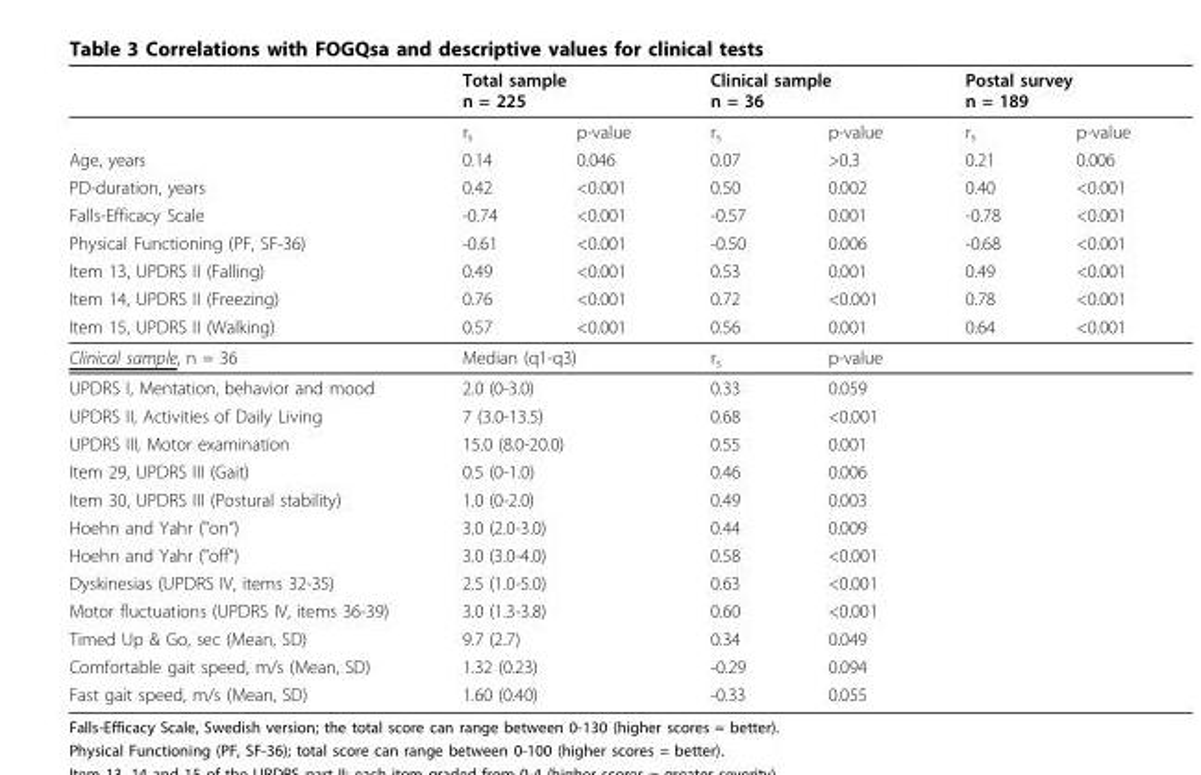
<table><thead><tr><td rowspan="2"></td><td colspan="2">Total sample n = 225</td><td colspan="2">Clinical sample n = 36</td><td colspan="2">Postal survey n = 189</td></tr><tr><td>r<sub>s</sub></td><td>p-value</td><td>r<sub>s</sub></td><td>p-value</td><td>r<sub>s</sub></td><td>p-value</td></tr></thead><tbody><tr><td>Age, years</td><td>0.14</td><td>0.046</td><td>0.07</td><td>&gt;0.3</td><td>0.21</td><td>0.006</td></tr><tr><td>PD-duration, years</td><td>0.42</td><td>&lt;0.001</td><td>0.50</td><td>0.002</td><td>0.40</td><td>&lt;0.001</td></tr><tr><td>Falls-Efficacy Scale</td><td>-0.74</td><td>&lt;0.001</td><td>-0.57</td><td>0.001</td><td>-0.78</td><td>&lt;0.001</td></tr><tr><td>Physical Functioning (PF, SF-36)</td><td>-0.61</td><td>&lt;0.001</td><td>-0.50</td><td>0.006</td><td>-0.68</td><td>&lt;0.001</td></tr><tr><td>Item 13, UPDRS II (Falling)</td><td>0.49</td><td>&lt;0.001</td><td>0.53</td><td>0.001</td><td>0.49</td><td>&lt;0.001</td></tr><tr><td>Item 14, UPDRS II (Freezing)</td><td>0.76</td><td>&lt;0.001</td><td>0.72</td><td>&lt;0.001</td><td>0.78</td><td>&lt;0.001</td></tr><tr><td>Item 15, UPDRS II (Walking)</td><td>0.57</td><td>&lt;0.001</td><td>0.56</td><td>0.001</td><td>0.64</td><td>&lt;0.001</td></tr><tr><td>Clinical sample, n = 36</td><td colspan="2">Median (q1-q3)</td><td>r<sub>s</sub></td><td>p-value</td><td></td><td></td></tr><tr><td>UPDRS I, Mentation, behavior and mood</td><td colspan="2">2.0 (0-3.0)</td><td>0.33</td><td>0.059</td><td></td><td></td></tr><tr><td>UPDRS II, Activities of Daily Living</td><td colspan="2">7 (3.0-13.5)</td><td>0.68</td><td>&lt;0.001</td><td></td><td></td></tr><tr><td>UPDRS III, Motor examination</td><td colspan="2">15.0 (8.0-20.0)</td><td>0.55</td><td>0.001</td><td></td><td></td></tr><tr><td>Item 29, UPDRS III (Gait)</td><td colspan="2">0.5 (0-1.0)</td><td>0.46</td><td>0.006</td><td></td><td></td></tr><tr><td>Item 30, UPDRS III (Postural stability)</td><td colspan="2">1.0 (0-2.0)</td><td>0.49</td><td>0.003</td><td></td><td></td></tr><tr><td>Hoehn and Yahr (&quot;on”)</td><td colspan="2">3.0 (2.0-3.0)</td><td>0.44</td><td>0.009</td><td></td><td></td></tr><tr><td>Hoehn and Yahr (&quot;off”)</td><td colspan="2">3.0 (3.0-4.0)</td><td>0.58</td><td>&lt;0.001</td><td></td><td></td></tr><tr><td>Dyskinesias (UPDRS IV, items 32-35)</td><td colspan="2">2.5 (1.0-5.0)</td><td>0.63</td><td>&lt;0.001</td><td></td><td></td></tr><tr><td>Motor fluctuations (UPDRS IV, items 36-39)</td><td colspan="2">3.0 (1.3-3.8)</td><td>0.60</td><td>&lt;0.001</td><td></td><td></td></tr><tr><td>Timed Up &amp; Go, sec (Mean, SD)</td><td colspan="2">9.7 (2.7)</td><td>0.34</td><td>0.049</td><td></td><td></td></tr><tr><td>Comfortable gait speed, m/s (Mean, SD)</td><td colspan="2">1.32 (0.23)</td><td>-0.29</td><td>0.094</td><td></td><td></td></tr><tr><td>Fast gait speed, m/s (Mean, SD)</td><td colspan="2">1.60 (0.40)</td><td>-0.33</td><td>0.055</td><td></td><td></td></tr></tbody></table>